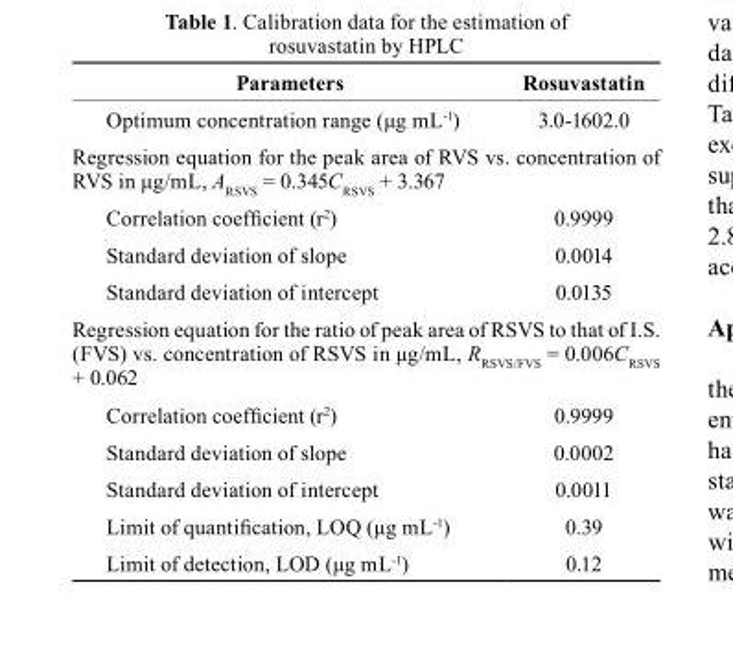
<table><thead><tr><td>Parameters</td><td>rosuvastatin</td></tr></thead><tbody><tr><td>Optimum concentration range (μg mL<sup>-1</sup>)</td><td>3.0-1602.0</td></tr><tr><td colspan="2">Regression equation for the peak area of RVS vs. concentration of RVS in μg/mL, A<sub>RSVS</sub> = 0.345C<sub>RSVS</sub> + 3.367</td></tr><tr><td>Correlation coefficient (r<sup>2</sup>)</td><td>0.9999</td></tr><tr><td>Standard deviation of slope</td><td>0.0014</td></tr><tr><td>Standard deviation of intercept</td><td>0.0135</td></tr><tr><td colspan="2">Regression equation for the ratio of peak area of RSVS to that of I.S. (FVS) vs. concentration of RSVS in μg/mL, R<sub>RSVS/FVS</sub> = 0.006C<sub>RSVS</sub> + 0.062</td></tr><tr><td>Correlation coefficient (r<sup>2</sup>)</td><td>0.9999</td></tr><tr><td>Standard deviation of slope</td><td>0.0002</td></tr><tr><td>Standard deviation of intercept</td><td>0.0011</td></tr><tr><td>Limit of quantification, LOQ (μg mL<sup>-1</sup>)</td><td>0.39</td></tr><tr><td>Limit of detection, LOD (μg mL<sup>-1</sup>)</td><td>0.12</td></tr></tbody></table>